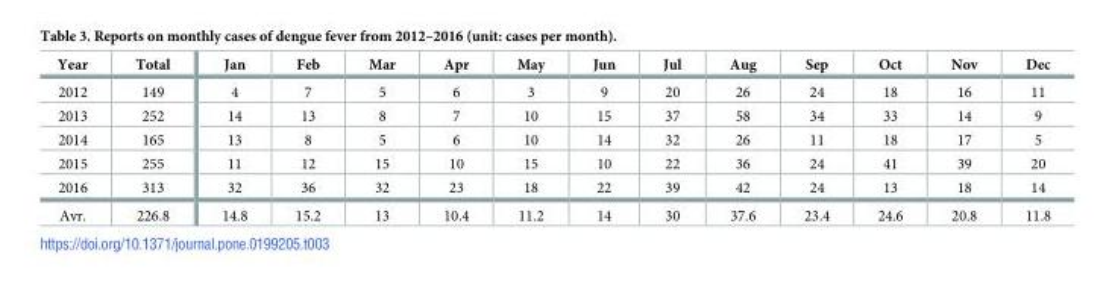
<table><thead><tr><td>Year</td><td>Total</td><td>Jan</td><td>Feb</td><td>Mar</td><td>Apr</td><td>May</td><td>Jun</td><td>Jul</td><td>Aug</td><td>Sep</td><td>Oct</td><td>Nov</td><td>Dec</td></tr></thead><tbody><tr><td>2012</td><td>149</td><td>4</td><td>7</td><td>5</td><td>6</td><td>3</td><td>9</td><td>20</td><td>26</td><td>24</td><td>18</td><td>16</td><td>11</td></tr><tr><td>2013</td><td>252</td><td>14</td><td>13</td><td>8</td><td>7</td><td>10</td><td>15</td><td>37</td><td>58</td><td>34</td><td>33</td><td>14</td><td>9</td></tr><tr><td>2014</td><td>165</td><td>13</td><td>8</td><td>5</td><td>6</td><td>10</td><td>14</td><td>32</td><td>26</td><td>11</td><td>18</td><td>17</td><td>5</td></tr><tr><td>2015</td><td>255</td><td>11</td><td>12</td><td>15</td><td>10</td><td>15</td><td>10</td><td>22</td><td>36</td><td>24</td><td>41</td><td>39</td><td>20</td></tr><tr><td>2016</td><td>313</td><td>32</td><td>36</td><td>32</td><td>23</td><td>18</td><td>22</td><td>39</td><td>42</td><td>24</td><td>13</td><td>18</td><td>14</td></tr><tr><td>Avr.</td><td>226.8</td><td>14.8</td><td>15.2</td><td>13</td><td>10.4</td><td>11.2</td><td>14</td><td>30</td><td>37.6</td><td>23.4</td><td>24.6</td><td>20.8</td><td>11.8</td></tr></tbody></table>